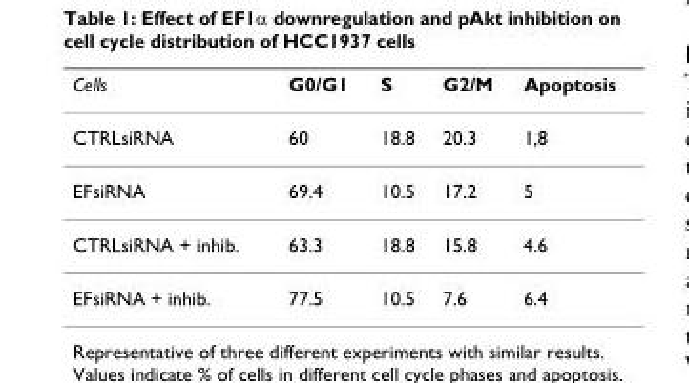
<table><thead><tr><td>Cells</td><td>G0/G1</td><td>S</td><td>G2/M</td><td>Apoptosis</td></tr></thead><tbody><tr><td>CTRLsiRNA</td><td>60</td><td>18.8</td><td>20.3</td><td>1,8</td></tr><tr><td>EFsiRNA</td><td>69.4</td><td>10.5</td><td>17.2</td><td>5</td></tr><tr><td>CTRLsiRNA + inhib.</td><td>63.3</td><td>18.8</td><td>15.8</td><td>4.6</td></tr><tr><td>EFsiRNA + inhib.</td><td>77.5</td><td>10.5</td><td>7.6</td><td>6.4</td></tr></tbody></table>